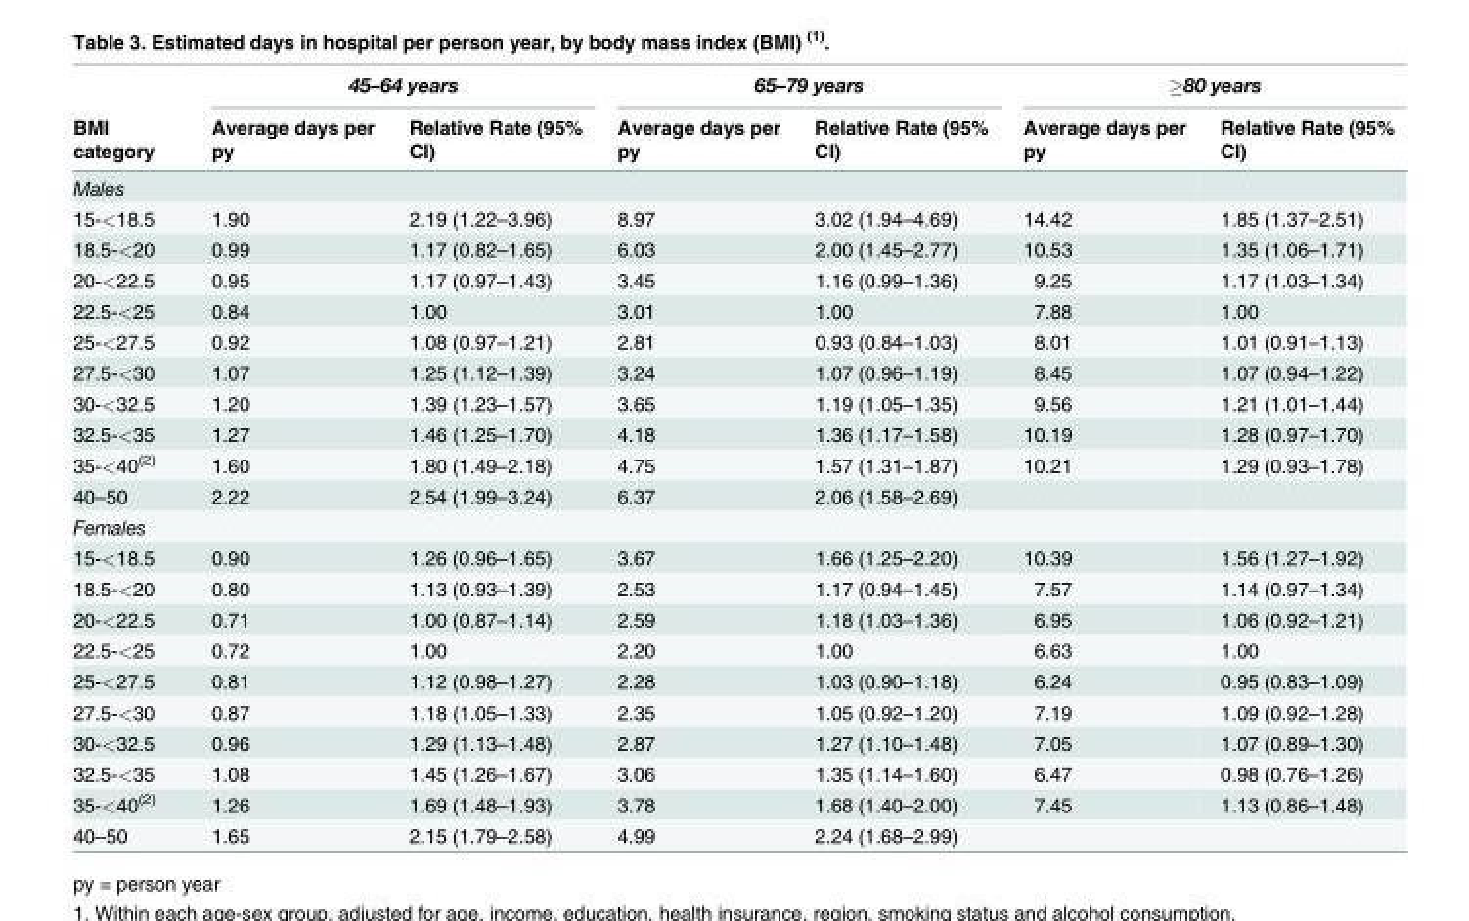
<table><thead><tr><td rowspan="2">BMI category</td><td colspan="2">45–64 years</td><td colspan="2">65–79 years</td><td colspan="2">≥80 years</td></tr><tr><td>Average days per py</td><td>Relative Rate (95% CI)</td><td>Average days per py</td><td>Relative Rate (95% CI)</td><td>Average days per py</td><td>Relative Rate (95% CI)</td></tr></thead><tbody><tr><td colspan="7">Males</td></tr><tr><td>15-&lt;18.5</td><td>1.90</td><td>2.19 (1.22–3.96)</td><td>8.97</td><td>3.02 (1.94–4.69)</td><td>14.42</td><td>1.85 (1.37–2.51)</td></tr><tr><td>18.5-&lt;20</td><td>0.99</td><td>1.17 (0.82–1.65)</td><td>6.03</td><td>2.00 (1.45–2.77)</td><td>10.53</td><td>1.35 (1.06–1.71)</td></tr><tr><td>20-&lt;22.5</td><td>0.95</td><td>1.17 (0.97–1.43)</td><td>3.45</td><td>1.16 (0.99–1.36)</td><td>9.25</td><td>1.17 (1.03–1.34)</td></tr><tr><td>22.5-&lt;25</td><td>0.84</td><td>1.00</td><td>3.01</td><td>1.00</td><td>7.88</td><td>1.00</td></tr><tr><td>25-&lt;27.5</td><td>0.92</td><td>1.08 (0.97–1.21)</td><td>2.81</td><td>0.93 (0.84–1.03)</td><td>8.01</td><td>1.01 (0.91–1.13)</td></tr><tr><td>27.5-&lt;30</td><td>1.07</td><td>1.25 (1.12–1.39)</td><td>3.24</td><td>1.07 (0.96–1.19)</td><td>8.45</td><td>1.07 (0.94–1.22)</td></tr><tr><td>30-&lt;32.5</td><td>1.20</td><td>1.39 (1.23–1.57)</td><td>3.65</td><td>1.19 (1.05–1.35)</td><td>9.56</td><td>1.21 (1.01–1.44)</td></tr><tr><td>32.5-&lt;35</td><td>1.27</td><td>1.46 (1.25–1.70)</td><td>4.18</td><td>1.36 (1.17–1.58)</td><td>10.19</td><td>1.28 (0.97–1.70)</td></tr><tr><td>35-&lt;40<sup>(2)</sup></td><td>1.60</td><td>1.80 (1.49–2.18)</td><td>4.75</td><td>1.57 (1.31–1.87)</td><td>10.21</td><td>1.29 (0.93–1.78)</td></tr><tr><td>40–50</td><td>2.22</td><td>2.54 (1.99–3.24)</td><td>6.37</td><td>2.06 (1.58–2.69)</td><td></td><td></td></tr><tr><td colspan="7">Females</td></tr><tr><td>15-&lt;18.5</td><td>0.90</td><td>1.26 (0.96–1.65)</td><td>3.67</td><td>1.66 (1.25–2.20)</td><td>10.39</td><td>1.56 (1.27–1.92)</td></tr><tr><td>18.5-&lt;20</td><td>0.80</td><td>1.13 (0.93–1.39)</td><td>2.53</td><td>1.17 (0.94–1.45)</td><td>7.57</td><td>1.14 (0.97–1.34)</td></tr><tr><td>20-&lt;22.5</td><td>0.71</td><td>1.00 (0.87–1.14)</td><td>2.59</td><td>1.18 (1.03–1.36)</td><td>6.95</td><td>1.06 (0.92–1.21)</td></tr><tr><td>22.5-&lt;25</td><td>0.72</td><td>1.00</td><td>2.20</td><td>1.00</td><td>6.63</td><td>1.00</td></tr><tr><td>25-&lt;27.5</td><td>0.81</td><td>1.12 (0.98–1.27)</td><td>2.28</td><td>1.03 (0.90–1.18)</td><td>6.24</td><td>0.95 (0.83–1.09)</td></tr><tr><td>27.5-&lt;30</td><td>0.87</td><td>1.18 (1.05–1.33)</td><td>2.35</td><td>1.05 (0.92–1.20)</td><td>7.19</td><td>1.09 (0.92–1.28)</td></tr><tr><td>30-&lt;32.5</td><td>0.96</td><td>1.29 (1.13–1.48)</td><td>2.87</td><td>1.27 (1.10–1.48)</td><td>7.05</td><td>1.07 (0.89–1.30)</td></tr><tr><td>32.5-&lt;35</td><td>1.08</td><td>1.45 (1.26–1.67)</td><td>3.06</td><td>1.35 (1.14–1.60)</td><td>6.47</td><td>0.98 (0.76–1.26)</td></tr><tr><td>35-&lt;40<sup>(2)</sup></td><td>1.26</td><td>1.69 (1.48–1.93)</td><td>3.78</td><td>1.68 (1.40–2.00)</td><td>7.45</td><td>1.13 (0.86–1.48)</td></tr><tr><td>40–50</td><td>1.65</td><td>2.15 (1.79–2.58)</td><td>4.99</td><td>2.24 (1.68–2.99)</td><td></td><td></td></tr></tbody></table>